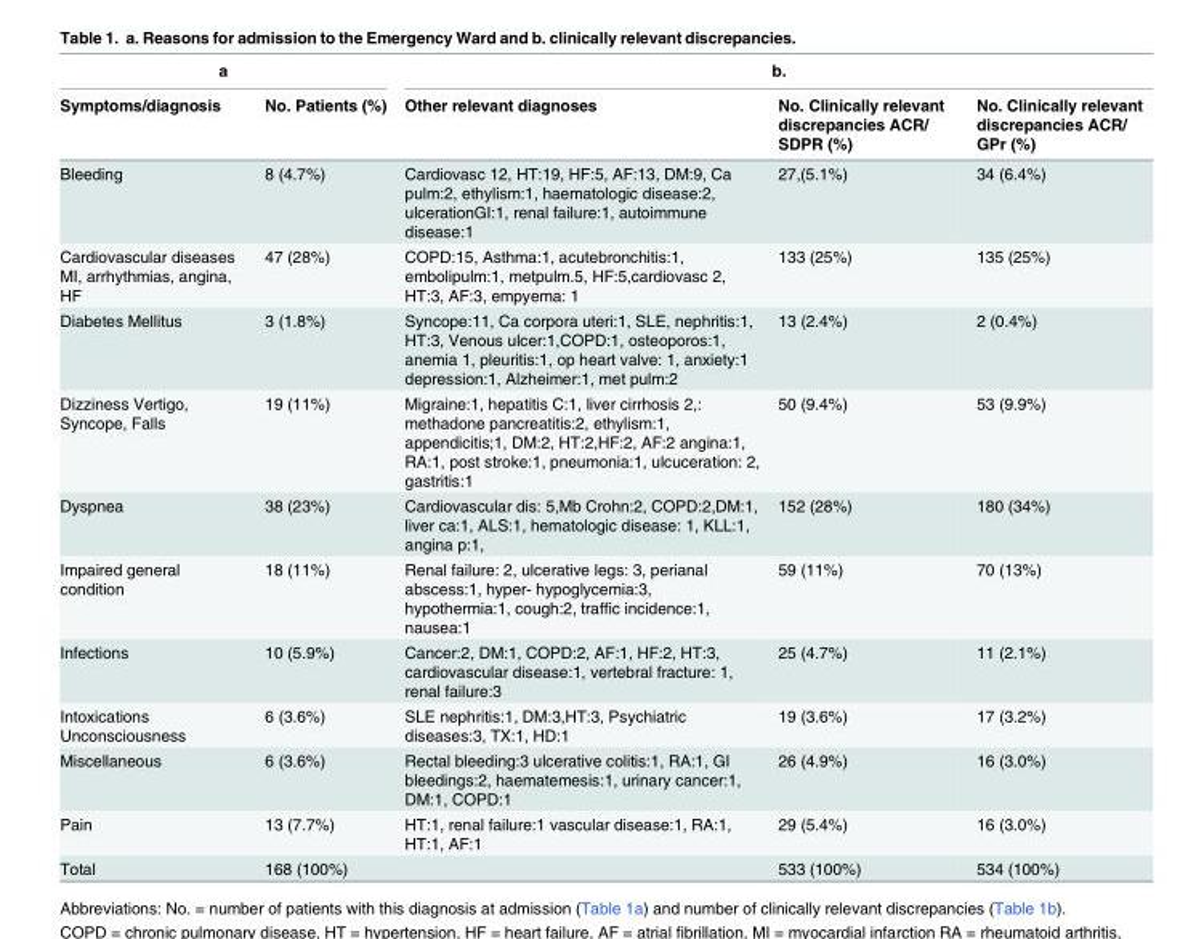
<table><thead><tr><td colspan="2">a</td><td colspan="3">b.</td></tr><tr><td>Symptoms/diagnosis</td><td>No. Patients (%)</td><td>Other relevant diagnoses</td><td>No. Clinically relevant discrepancies ACR/ SDPR (%)</td><td>No. Clinically relevant discrepancies ACR/ GPr (%)</td></tr></thead><tbody><tr><td>Bleeding</td><td>8 (4.7%)</td><td>Cardiovasc 12, HT:19, HF:5, AF:13, DM:9, Ca pulm:2, ethylism:1, haematologic disease:2, ulcerationGI:1, renal failure:1, autoimmune disease:1</td><td>27,(5.1%)</td><td>34 (6.4%)</td></tr><tr><td>Cardiovascular diseases MI, arrhythmias, angina, HF</td><td>47 (28%)</td><td>COPD:15, Asthma:1, acutebronchitis:1, embolipulm:1, metpulm.5, HF:5,cardiovasc 2, HT:3, AF:3, empyema: 1</td><td>133 (25%)</td><td>135 (25%)</td></tr><tr><td>Diabetes Mellitus</td><td>3 (1.8%)</td><td>Syncope:11, Ca corpora uteri:1, SLE, nephritis:1, HT:3, Venous ulcer:1,COPD:1, osteoporos:1, anemia 1, pleuritis:1, op heart valve: 1, anxiety:1 depression:1, Alzheimer:1, met pulm:2</td><td>13 (2.4%)</td><td>2 (0.4%)</td></tr><tr><td>Dizziness Vertigo, Syncope, Falls</td><td>19 (11%)</td><td>Migraine:1, hepatitis C:1, liver cirrhosis 2,: methadone pancreatitis:2, ethylism:1, appendicitis;1, DM:2, HT:2,HF:2, AF:2 angina:1, RA:1, post stroke:1, pneumonia:1, ulcuceration: 2, gastritis:1</td><td>50 (9.4%)</td><td>53 (9.9%)</td></tr><tr><td>Dyspnea</td><td>38 (23%)</td><td>Cardiovascular dis: 5,Mb Crohn:2, COPD:2,DM:1, liver ca:1, ALS:1, hematologic disease: 1, KLL:1, angina p:1,</td><td>152 (28%)</td><td>180 (34%)</td></tr><tr><td>Impaired general condition</td><td>18 (11%)</td><td>Renal failure: 2, ulcerative legs: 3, perianal abscess:1, hyper- hypoglycemia:3, hypothermia:1, cough:2, traffic incidence:1, nausea:1</td><td>59 (11%)</td><td>70 (13%)</td></tr><tr><td>Infections</td><td>10 (5.9%)</td><td>Cancer:2, DM:1, COPD:2, AF:1, HF:2, HT:3, cardiovascular disease:1, vertebral fracture: 1, renal failure:3</td><td>25 (4.7%)</td><td>11 (2.1%)</td></tr><tr><td>Intoxications Unconsciousness</td><td>6 (3.6%)</td><td>SLE nephritis:1, DM:3,HT:3, Psychiatric diseases:3, TX:1, HD:1</td><td>19 (3.6%)</td><td>17 (3.2%)</td></tr><tr><td>Miscellaneous</td><td>6 (3.6%)</td><td>Rectal bleeding:3 ulcerative colitis:1, RA:1, GI bleedings:2, haematemesis:1, urinary cancer:1, DM:1, COPD:1</td><td>26 (4.9%)</td><td>16 (3.0%)</td></tr><tr><td>Pain</td><td>13 (7.7%)</td><td>HT:1, renal failure:1 vascular disease:1, RA:1, HT:1, AF:1</td><td>29 (5.4%)</td><td>16 (3.0%)</td></tr><tr><td>Total</td><td>168 (100%)</td><td></td><td>533 (100%)</td><td>534 (100%)</td></tr></tbody></table>